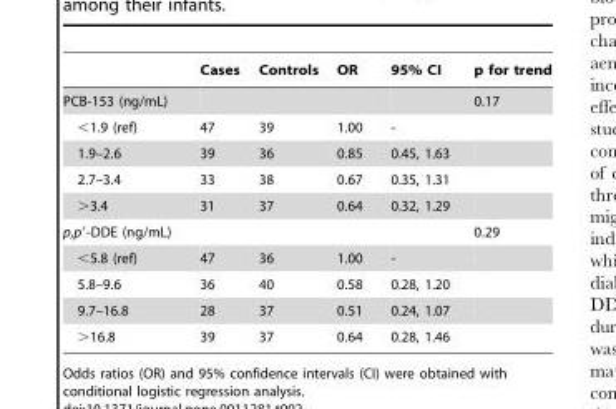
<table><thead><tr><td></td><td>Cases</td><td>Controls</td><td>OR</td><td>95% CI</td><td>p for trend</td></tr></thead><tbody><tr><td>PCB-153 (ng/mL)</td><td></td><td></td><td></td><td></td><td>0.17</td></tr><tr><td>&lt;1.9 (ref)</td><td>47</td><td>39</td><td>1.00</td><td>-</td><td></td></tr><tr><td>1.9–2.6</td><td>39</td><td>36</td><td>0.85</td><td>0.45, 1.63</td><td></td></tr><tr><td>2.7–3.4</td><td>33</td><td>38</td><td>0.67</td><td>0.35, 1.31</td><td></td></tr><tr><td>&gt;3.4</td><td>31</td><td>37</td><td>0.64</td><td>0.32, 1.29</td><td></td></tr><tr><td>p,p′-DDE (ng/mL)</td><td></td><td></td><td></td><td></td><td>0.29</td></tr><tr><td>&lt;5.8 (ref)</td><td>47</td><td>36</td><td>1.00</td><td>-</td><td></td></tr><tr><td>5.8–9.6</td><td>36</td><td>40</td><td>0.58</td><td>0.28, 1.20</td><td></td></tr><tr><td>9.7–16.8</td><td>28</td><td>37</td><td>0.51</td><td>0.24, 1.07</td><td></td></tr><tr><td>&gt;16.8</td><td>39</td><td>37</td><td>0.64</td><td>0.28, 1.46</td><td></td></tr></tbody></table>